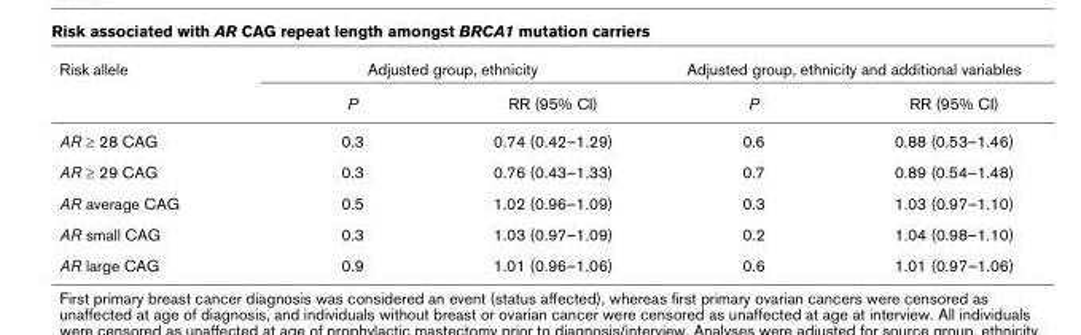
<table><thead><tr><td rowspan="2">Risk allele</td><td colspan="2">Adjusted group, ethnicity</td><td colspan="2">Adjusted group, ethnicity and additional variables</td></tr><tr><td>P</td><td>RR (95% CI)</td><td>P</td><td>RR (95% CI)</td></tr></thead><tbody><tr><td>AR ≥ 28 CAG</td><td>0.3</td><td>0.74 (0.42–1.29)</td><td>0.6</td><td>0.88 (0.53–1.46)</td></tr><tr><td>AR ≥ 29 CAG</td><td>0.3</td><td>0.76 (0.43–1.33)</td><td>0.7</td><td>0.89 (0.54–1.48)</td></tr><tr><td>AR average CAG</td><td>0.5</td><td>1.02 (0.96–1.09)</td><td>0.3</td><td>1.03 (0.97–1.10)</td></tr><tr><td>AR small CAG</td><td>0.3</td><td>1.03 (0.97–1.09)</td><td>0.2</td><td>1.04 (0.98–1.10)</td></tr><tr><td>AR large CAG</td><td>0.9</td><td>1.01 (0.96–1.06)</td><td>0.6</td><td>1.01 (0.97–1.06)</td></tr></tbody></table>